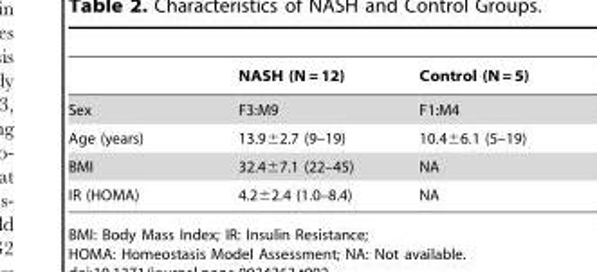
<table><thead><tr><td></td><td>NASH (N = 12)</td><td>Control (N = 5)</td></tr></thead><tbody><tr><td>Sex</td><td>F3:M9</td><td>F1:M4</td></tr><tr><td>Age (years)</td><td>13.9±2.7 (9–19)</td><td>10.4±6.1 (5–19)</td></tr><tr><td>BMI</td><td>32.4±7.1 (22–45)</td><td>NA</td></tr><tr><td>IR (HOMA)</td><td>4.2±2.4 (1.0–8.4)</td><td>NA</td></tr></tbody></table>